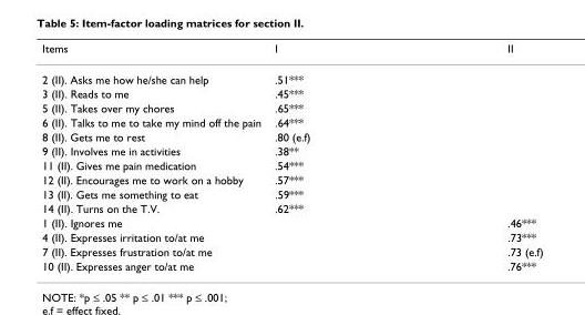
<table><thead><tr><td>Items</td><td>I</td><td>II</td></tr></thead><tbody><tr><td>2 (II). Asks me how he/she can help</td><td>.51***</td><td></td></tr><tr><td>3 (II). Reads to me</td><td>.45***</td><td></td></tr><tr><td>5 (II). Takes over my chores</td><td>.65***</td><td></td></tr><tr><td>6 (II). Talks to me to take my mind off the pain</td><td>.64***</td><td></td></tr><tr><td>8 (II). Gets me to rest</td><td>.80 (e.f)</td><td></td></tr><tr><td>9 (II). Involves me in activities</td><td>.38**</td><td></td></tr><tr><td>11 (II). Gives me pain medication</td><td>.54***</td><td></td></tr><tr><td>12 (II). Encourages me to work on a hobby</td><td>.57***</td><td></td></tr><tr><td>13 (II). Gets me something to eat</td><td>.59***</td><td></td></tr><tr><td>14 (II). Turns on the T.V.</td><td>.62***</td><td></td></tr><tr><td>1 (II). Ignores me</td><td></td><td>.46***</td></tr><tr><td>4 (II). Expresses irritation to/at me</td><td></td><td>.73***</td></tr><tr><td>7 (II). Expresses frustration to/at me</td><td></td><td>.73 (e.f)</td></tr><tr><td>10 (II). Expresses anger to/at me</td><td></td><td>.76***</td></tr></tbody></table>